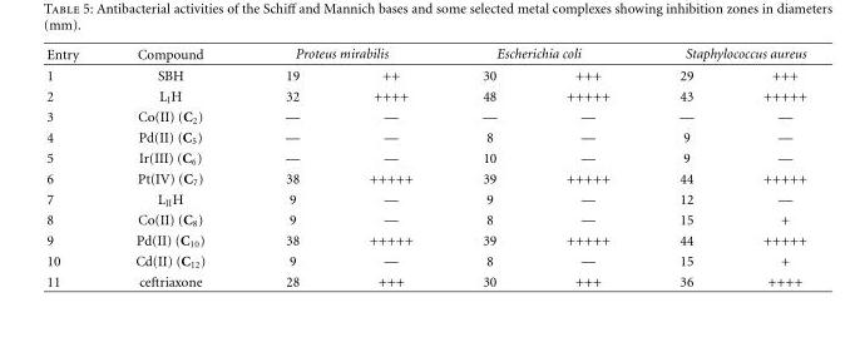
<table><thead><tr><td rowspan="2">Entry 1</td><td rowspan="2">Compound SBH</td><td colspan="2">Proteus mirabilis</td><td colspan="2">Escherichia coli</td><td colspan="2">Staphylococcus aureus</td></tr><tr><td>19</td><td>++</td><td>30</td><td>+++</td><td>29</td><td>+++</td></tr></thead><tbody><tr><td>2</td><td>L<sub>I</sub>H</td><td>32</td><td>++++</td><td>48</td><td>+++++</td><td>43</td><td>+++++</td></tr><tr><td>3</td><td>Co(II) (C<sub>2</sub>)</td><td>—</td><td>—</td><td>—</td><td>—</td><td>—</td><td>—</td></tr><tr><td>4</td><td>Pd(II) (C<sub>5</sub>)</td><td>—</td><td>—</td><td>8</td><td>—</td><td>9</td><td>—</td></tr><tr><td>5</td><td>Ir(III) (C<sub>6</sub>)</td><td>—</td><td>—</td><td>10</td><td>—</td><td>9</td><td>—</td></tr><tr><td>6</td><td>Pt(IV) (C<sub>7</sub>)</td><td>38</td><td>+++++</td><td>39</td><td>+++++</td><td>44</td><td>+++++</td></tr><tr><td>7</td><td>L<sub>II</sub>H</td><td>9</td><td>—</td><td>9</td><td>—</td><td>12</td><td>—</td></tr><tr><td>8</td><td>Co(II) (C<sub>8</sub>)</td><td>9</td><td>—</td><td>8</td><td>—</td><td>15</td><td>+</td></tr><tr><td>9</td><td>Pd(II) (C<sub>10</sub>)</td><td>38</td><td>+++++</td><td>39</td><td>+++++</td><td>44</td><td>+++++</td></tr><tr><td>10</td><td>Cd(II) (C<sub>12</sub>)</td><td>9</td><td>—</td><td>8</td><td>—</td><td>15</td><td>+</td></tr><tr><td>11</td><td>ceftriaxone</td><td>28</td><td>+++</td><td>30</td><td>+++</td><td>36</td><td>++++</td></tr></tbody></table>